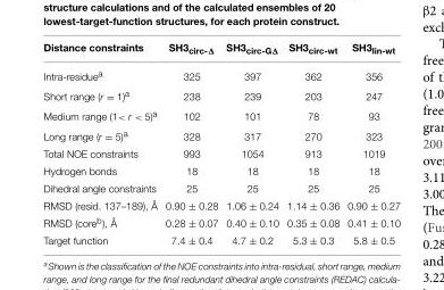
<table><thead><tr><td>Distance constraints</td><td>SH3<sub>circ-</sub>Δ</td><td>SH3<sub>circ-G</sub>Δ</td><td>SH3<sub>circ-wt</sub></td><td>SH3<sub>lin-wt</sub></td></tr></thead><tbody><tr><td>Intra-residue<sup>a</sup></td><td>325</td><td>397</td><td>362</td><td>356</td></tr><tr><td>Short range (r = 1)<sup>a</sup></td><td>238</td><td>239</td><td>203</td><td>247</td></tr><tr><td>Medium range (1&lt; r &lt; 5)<sup>a</sup></td><td>102</td><td>101</td><td>78</td><td>93</td></tr><tr><td>Long range (r = 5)<sup>a</sup></td><td>328</td><td>317</td><td>270</td><td>323</td></tr><tr><td>Total NOE constraints</td><td>993</td><td>1054</td><td>913</td><td>1019</td></tr><tr><td>Hydrogen bonds</td><td>18</td><td>18</td><td>18</td><td>18</td></tr><tr><td>Dihedral angle constraints</td><td>25</td><td>25</td><td>25</td><td>25</td></tr><tr><td>RMSD (resid. 137–189), Å</td><td>0.90 ± 0.28</td><td>1.06 ± 0.24</td><td>1.14 ± 0.36</td><td>0.90 ± 0.27</td></tr><tr><td>RMSD (core<sup>b</sup>), Å</td><td>0.28 ± 0.07</td><td>0.40 ± 0.10</td><td>0.35 ± 0.08</td><td>0.41 ± 0.10</td></tr><tr><td>Target function</td><td>7.4 ± 0.4</td><td>4.7 ± 0.2</td><td>5.3 ± 0.3</td><td>5.8 ± 0.5</td></tr></tbody></table>